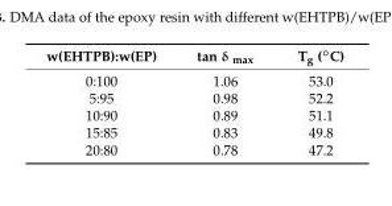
<table><thead><tr><td>w(EHTPB):w(EP)</td><td>tan δ max</td><td>Tg (◦C)</td></tr></thead><tbody><tr><td>0:100</td><td>1.06</td><td>53.0</td></tr><tr><td>5:95</td><td>0.98</td><td>52.2</td></tr><tr><td>10:90</td><td>0.89</td><td>51.1</td></tr><tr><td>15:85</td><td>0.83</td><td>49.8</td></tr><tr><td>20:80</td><td>0.78</td><td>47.2</td></tr></tbody></table>